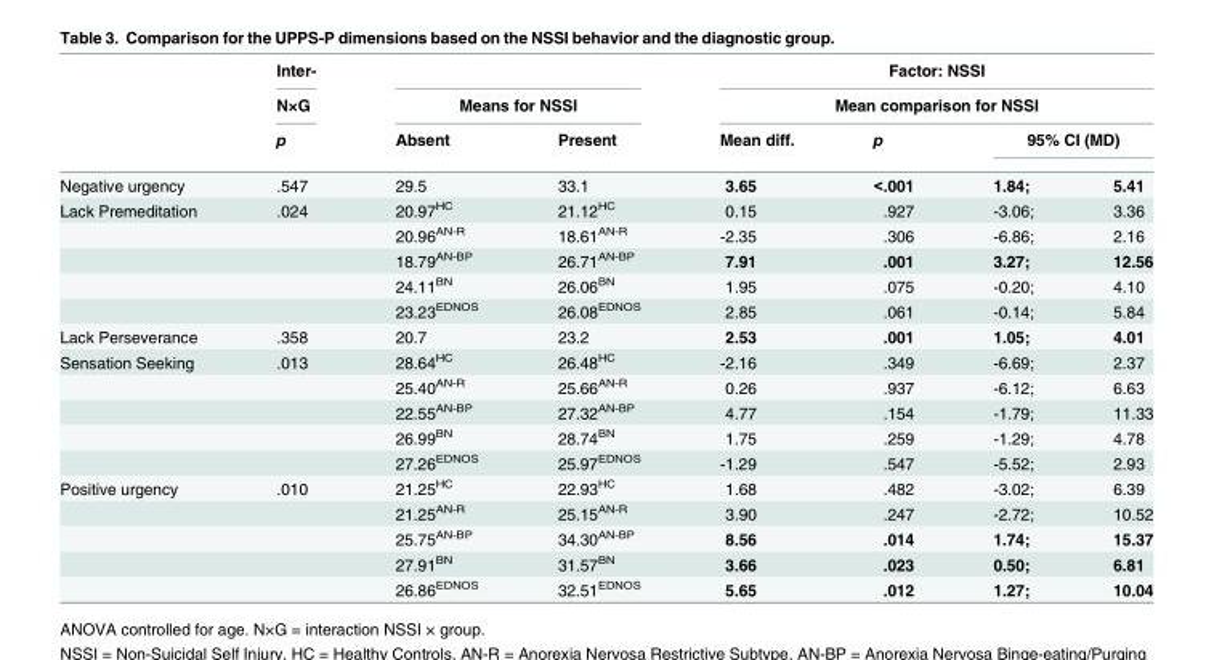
<table><thead><tr><td rowspan="4">Negative urgency</td><td rowspan="4">Inter- N×G p .547</td><td></td><td></td><td rowspan="2" colspan="4">Factor: NSSI Mean comparison for NSSI</td></tr><tr><td colspan="2">Means for NSSI</td></tr><tr><td rowspan="2">Absent 29.5</td><td rowspan="2">Present 33.1</td><td rowspan="2">Mean diff. 3.65</td><td rowspan="2">p &lt;.001</td><td colspan="2">95% CI (MD)</td></tr><tr><td>1.84;</td><td>5.41</td></tr></thead><tbody><tr><td rowspan="5">Lack Premeditation</td><td>.024</td><td>20.97<sup>HC</sup></td><td>21.12<sup>HC</sup></td><td>0.15</td><td>.927</td><td>-3.06;</td><td>3.36</td></tr><tr><td></td><td>20.96<sup>AN-R</sup></td><td>18.61<sup>AN-R</sup></td><td>-2.35</td><td>.306</td><td>-6.86;</td><td>2.16</td></tr><tr><td></td><td>18.79<sup>AN-BP</sup></td><td>26.71<sup>AN-BP</sup></td><td>7.91</td><td>.001</td><td>3.27;</td><td>12.56</td></tr><tr><td></td><td>24.11<sup>BN</sup></td><td>26.06<sup>BN</sup></td><td>1.95</td><td>.075</td><td>-0.20;</td><td>4.10</td></tr><tr><td></td><td>23.23<sup>EDNOS</sup></td><td>26.08<sup>EDNOS</sup></td><td>2.85</td><td>.061</td><td>-0.14;</td><td>5.84</td></tr><tr><td>Lack Perseverance</td><td>.358</td><td>20.7</td><td>23.2</td><td>2.53</td><td>.001</td><td>1.05;</td><td>4.01</td></tr><tr><td rowspan="5">Sensation Seeking</td><td>.013</td><td>28.64<sup>HC</sup></td><td>26.48<sup>HC</sup></td><td>-2.16</td><td>.349</td><td>-6.69;</td><td>2.37</td></tr><tr><td></td><td>25.40<sup>AN-R</sup></td><td>25.66<sup>AN-R</sup></td><td>0.26</td><td>.937</td><td>-6.12;</td><td>6.63</td></tr><tr><td></td><td>22.55<sup>AN-BP</sup></td><td>27.32<sup>AN-BP</sup></td><td>4.77</td><td>.154</td><td>-1.79;</td><td>11.33</td></tr><tr><td></td><td>26.99<sup>BN</sup></td><td>28.74<sup>BN</sup></td><td>1.75</td><td>.259</td><td>-1.29;</td><td>4.78</td></tr><tr><td></td><td>27.26<sup>EDNOS</sup></td><td>25.97<sup>EDNOS</sup></td><td>-1.29</td><td>.547</td><td>-5.52;</td><td>2.93</td></tr><tr><td rowspan="5">Positive urgency</td><td>.010</td><td>21.25<sup>HC</sup></td><td>22.93<sup>HC</sup></td><td>1.68</td><td>.482</td><td>-3.02;</td><td>6.39</td></tr><tr><td></td><td>21.25<sup>AN-R</sup></td><td>25.15<sup>AN-R</sup></td><td>3.90</td><td>.247</td><td>-2.72;</td><td>10.52</td></tr><tr><td></td><td>25.75<sup>AN-BP</sup></td><td>34.30<sup>AN-BP</sup></td><td>8.56</td><td>.014</td><td>1.74;</td><td>15.37</td></tr><tr><td></td><td>27.91<sup>BN</sup></td><td>31.57<sup>BN</sup></td><td>3.66</td><td>.023</td><td>0.50;</td><td>6.81</td></tr><tr><td></td><td>26.86<sup>EDNOS</sup></td><td>32.51<sup>EDNOS</sup></td><td>5.65</td><td>.012</td><td>1.27;</td><td>10.04</td></tr></tbody></table>